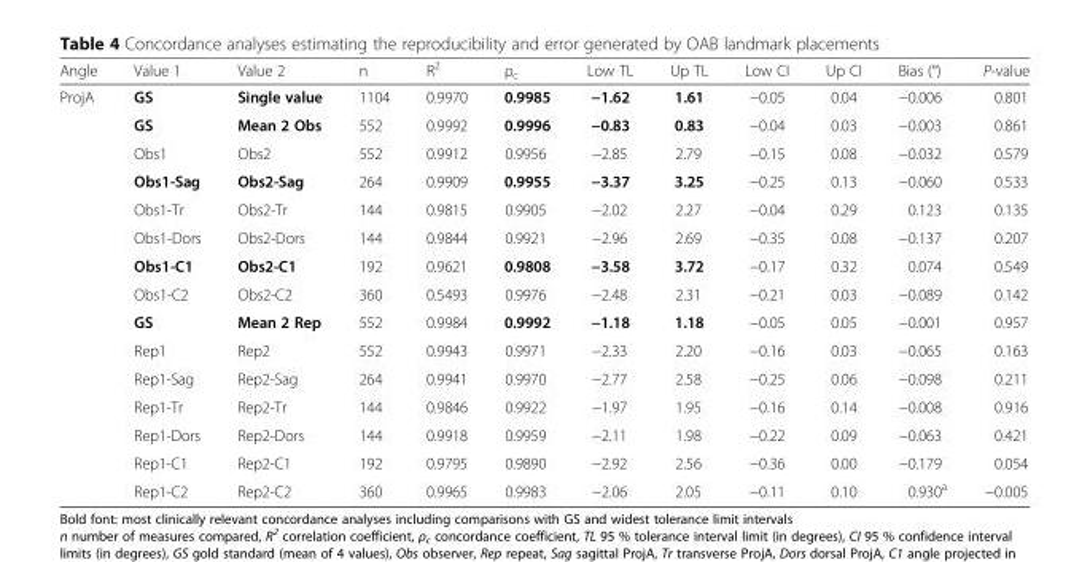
<table><thead><tr><td>Angle</td><td>Value 1</td><td>Value 2</td><td>n</td><td>R<sup>2</sup></td><td>ρ<sub>c</sub></td><td>Low TL</td><td>Up TL</td><td>Low CI</td><td>Up CI</td><td>Bias (°)</td><td>P-value</td></tr></thead><tbody><tr><td rowspan="15">ProjA</td><td>GS</td><td>Single value</td><td>1104</td><td>0.9970</td><td>0.9985</td><td>−1.62</td><td>1.61</td><td>−0.05</td><td>0.04</td><td>−0.006</td><td>0.801</td></tr><tr><td>GS</td><td>Mean 2 Obs</td><td>552</td><td>0.9992</td><td>0.9996</td><td>−0.83</td><td>0.83</td><td>−0.04</td><td>0.03</td><td>−0.003</td><td>0.861</td></tr><tr><td>Obs1</td><td>Obs2</td><td>552</td><td>0.9912</td><td>0.9956</td><td>−2.85</td><td>2.79</td><td>−0.15</td><td>0.08</td><td>−0.032</td><td>0.579</td></tr><tr><td>Obs1-Sag</td><td>Obs2-Sag</td><td>264</td><td>0.9909</td><td>0.9955</td><td>−3.37</td><td>3.25</td><td>−0.25</td><td>0.13</td><td>−0.060</td><td>0.533</td></tr><tr><td>Obs1-Tr</td><td>Obs2-Tr</td><td>144</td><td>0.9815</td><td>0.9905</td><td>−2.02</td><td>2.27</td><td>−0.04</td><td>0.29</td><td>0.123</td><td>0.135</td></tr><tr><td>Obs1-Dors</td><td>Obs2-Dors</td><td>144</td><td>0.9844</td><td>0.9921</td><td>−2.96</td><td>2.69</td><td>−0.35</td><td>0.08</td><td>−0.137</td><td>0.207</td></tr><tr><td>Obs1-C1</td><td>Obs2-C1</td><td>192</td><td>0.9621</td><td>0.9808</td><td>−3.58</td><td>3.72</td><td>−0.17</td><td>0.32</td><td>0.074</td><td>0.549</td></tr><tr><td>Obs1-C2</td><td>Obs2-C2</td><td>360</td><td>0.5493</td><td>0.9976</td><td>−2.48</td><td>2.31</td><td>−0.21</td><td>0.03</td><td>−0.089</td><td>0.142</td></tr><tr><td>GS</td><td>Mean 2 Rep</td><td>552</td><td>0.9984</td><td>0.9992</td><td>−1.18</td><td>1.18</td><td>−0.05</td><td>0.05</td><td>−0.001</td><td>0.957</td></tr><tr><td>Rep1</td><td>Rep2</td><td>552</td><td>0.9943</td><td>0.9971</td><td>−2.33</td><td>2.20</td><td>−0.16</td><td>0.03</td><td>−0.065</td><td>0.163</td></tr><tr><td>Rep1-Sag</td><td>Rep2-Sag</td><td>264</td><td>0.9941</td><td>0.9970</td><td>−2.77</td><td>2.58</td><td>−0.25</td><td>0.06</td><td>−0.098</td><td>0.211</td></tr><tr><td>Rep1-Tr</td><td>Rep2-Tr</td><td>144</td><td>0.9846</td><td>0.9922</td><td>−1.97</td><td>1.95</td><td>−0.16</td><td>0.14</td><td>−0.008</td><td>0.916</td></tr><tr><td>Rep1-Dors</td><td>Rep2-Dors</td><td>144</td><td>0.9918</td><td>0.9959</td><td>−2.11</td><td>1.98</td><td>−0.22</td><td>0.09</td><td>−0.063</td><td>0.421</td></tr><tr><td>Rep1-C1</td><td>Rep2-C1</td><td>192</td><td>0.9795</td><td>0.9890</td><td>−2.92</td><td>2.56</td><td>−0.36</td><td>0.00</td><td>−0.179</td><td>0.054</td></tr><tr><td>Rep1-C2</td><td>Rep2-C2</td><td>360</td><td>0.9965</td><td>0.9983</td><td>−2.06</td><td>2.05</td><td>−0.11</td><td>0.10</td><td>0.930<sup>a</sup></td><td>−0.005</td></tr></tbody></table>